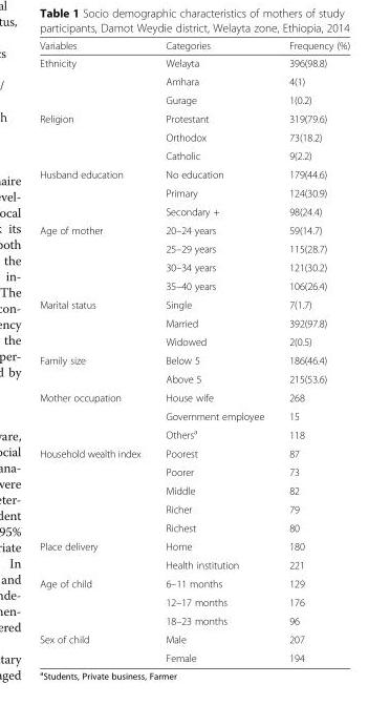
<table><thead><tr><td>Variables</td><td>Categories</td><td>Frequency (%)</td></tr></thead><tbody><tr><td rowspan="3">Ethnicity</td><td>Welayta</td><td>396(98.8)</td></tr><tr><td>Amhara</td><td>4(1)</td></tr><tr><td>Gurage</td><td>1(0.2)</td></tr><tr><td rowspan="3">Religion</td><td>Protestant</td><td>319(79.6)</td></tr><tr><td>Orthodox</td><td>73(18.2)</td></tr><tr><td>Catholic</td><td>9(2.2)</td></tr><tr><td rowspan="3">Husband education</td><td>No education</td><td>179(44.6)</td></tr><tr><td>Primary</td><td>124(30.9)</td></tr><tr><td>Secondary +</td><td>98(24.4)</td></tr><tr><td rowspan="4">Age of mother</td><td>20–24 years</td><td>59(14.7)</td></tr><tr><td>25–29 years</td><td>115(28.7)</td></tr><tr><td>30–34 years</td><td>121(30.2)</td></tr><tr><td>35–40 years</td><td>106(26.4)</td></tr><tr><td rowspan="3">Marital status</td><td>Single</td><td>7(1.7)</td></tr><tr><td>Married</td><td>392(97.8)</td></tr><tr><td>Widowed</td><td>2(0.5)</td></tr><tr><td rowspan="2">Family size</td><td>Below 5</td><td>186(46.4)</td></tr><tr><td>Above 5</td><td>215(53.6)</td></tr><tr><td rowspan="3">Mother occupation</td><td>House wife</td><td>268</td></tr><tr><td>Government employee</td><td>15</td></tr><tr><td>Others<sup>a</sup></td><td>118</td></tr><tr><td rowspan="5">Household wealth index</td><td>Poorest</td><td>87</td></tr><tr><td>Poorer</td><td>73</td></tr><tr><td>Middle</td><td>82</td></tr><tr><td>Richer</td><td>79</td></tr><tr><td>Richest</td><td>80</td></tr><tr><td rowspan="2">Place delivery</td><td>Home</td><td>180</td></tr><tr><td>Health institution</td><td>221</td></tr><tr><td rowspan="3">Age of child</td><td>6–11 months</td><td>129</td></tr><tr><td>12–17 months</td><td>176</td></tr><tr><td>18–23 months</td><td>96</td></tr><tr><td rowspan="2">Sex of child</td><td>Male</td><td>207</td></tr><tr><td>Female</td><td>194</td></tr></tbody></table>